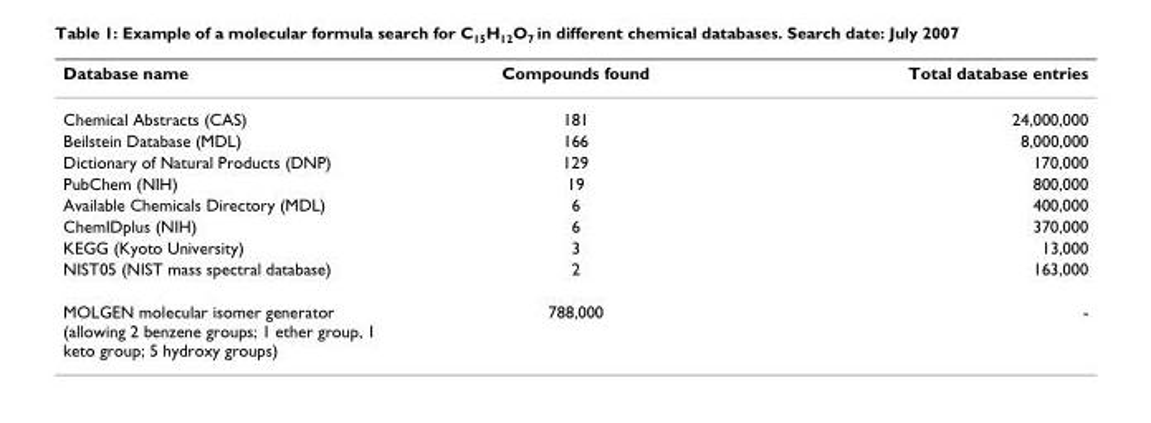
<table><thead><tr><td>Database name</td><td>Compounds found</td><td>Total database entries</td></tr></thead><tbody><tr><td>Chemical Abstracts (CAS)</td><td>181</td><td>24,000,000</td></tr><tr><td>Beilstein Database (MDL)</td><td>166</td><td>8,000,000</td></tr><tr><td>Dictionary of Natural Products (DNP)</td><td>129</td><td>170,000</td></tr><tr><td>PubChem (NIH)</td><td>19</td><td>800,000</td></tr><tr><td>Available Chemicals Directory (MDL)</td><td>6</td><td>400,000</td></tr><tr><td>ChemIDplus (NIH)</td><td>6</td><td>370,000</td></tr><tr><td>KEGG (Kyoto University)</td><td>3</td><td>13,000</td></tr><tr><td>NIST05 (NIST mass spectral database)</td><td>2</td><td>163,000</td></tr><tr><td>MOLGEN molecular isomer generator (allowing 2 benzene groups; 1 ether group, 1 keto group; 5 hydroxy groups)</td><td>788,000</td><td>-</td></tr></tbody></table>